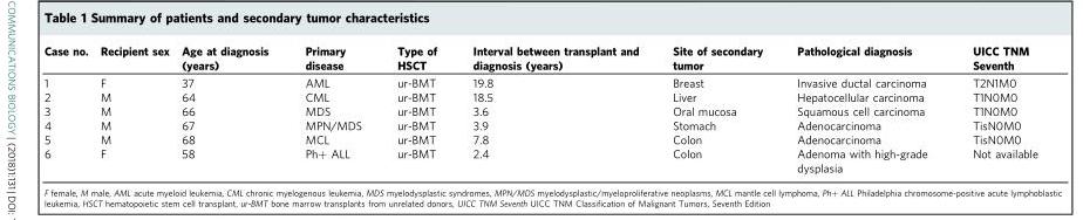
<table><thead><tr><td>Case no.</td><td>Recipient sex</td><td>Age at diagnosis (years)</td><td>Primary disease</td><td>Type of HSCT</td><td>Interval between transplant and diagnosis (years)</td><td>Site of secondary tumor</td><td>Pathological diagnosis</td><td>UICC TNM Seventh</td></tr></thead><tbody><tr><td>1</td><td>F</td><td>37</td><td>AML</td><td>ur-BMT</td><td>19.8</td><td>Breast</td><td>Invasive ductal carcinoma</td><td>T2N1M0</td></tr><tr><td>2</td><td>M</td><td>64</td><td>CML</td><td>ur-BMT</td><td>18.5</td><td>Liver</td><td>Hepatocellular carcinoma</td><td>T1N0M0</td></tr><tr><td>3</td><td>M</td><td>66</td><td>MDS</td><td>ur-BMT</td><td>3.6</td><td>Oral mucosa</td><td>Squamous cell carcinoma</td><td>T1N0M0</td></tr><tr><td>4</td><td>M</td><td>67</td><td>MPN/MDS</td><td>ur-BMT</td><td>3.9</td><td>Stomach</td><td>Adenocarcinoma</td><td>TisN0M0</td></tr><tr><td>5</td><td>M</td><td>68</td><td>MCL</td><td>ur-BMT</td><td>7.8</td><td>Colon</td><td>Adenocarcinoma</td><td>TisN0M0</td></tr><tr><td>6</td><td>F</td><td>58</td><td>Ph+ ALL</td><td>ur-BMT</td><td>2.4</td><td>Colon</td><td>Adenoma with high-grade dysplasia</td><td>Not available</td></tr></tbody></table>